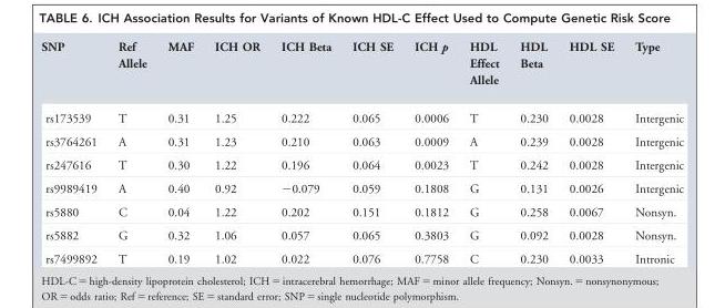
<table><thead><tr><td>SNP</td><td>Ref Allele</td><td>MAF</td><td>ICH OR</td><td>ICH Beta</td><td>ICH SE</td><td>ICH p</td><td>HDL Effect Allele</td><td>HDL Beta</td><td>HDL SE</td><td>Type</td></tr></thead><tbody><tr><td>rs173539</td><td>T</td><td>0.31</td><td>1.25</td><td>0.222</td><td>0.065</td><td>0.0006</td><td>T</td><td>0.230</td><td>0.0028</td><td>Intergenic</td></tr><tr><td>rs3764261</td><td>A</td><td>0.31</td><td>1.23</td><td>0.210</td><td>0.063</td><td>0.0009</td><td>A</td><td>0.239</td><td>0.0028</td><td>Intergenic</td></tr><tr><td>rs247616</td><td>T</td><td>0.30</td><td>1.22</td><td>0.196</td><td>0.064</td><td>0.0023</td><td>T</td><td>0.242</td><td>0.0028</td><td>Intergenic</td></tr><tr><td>rs9989419</td><td>A</td><td>0.40</td><td>0.92</td><td>−0.079</td><td>0.059</td><td>0.1808</td><td>G</td><td>0.131</td><td>0.0026</td><td>Intergenic</td></tr><tr><td>rs5880</td><td>C</td><td>0.04</td><td>1.22</td><td>0.202</td><td>0.151</td><td>0.1812</td><td>G</td><td>0.258</td><td>0.0067</td><td>Nonsyn.</td></tr><tr><td>rs5882</td><td>G</td><td>0.32</td><td>1.06</td><td>0.057</td><td>0.065</td><td>0.3803</td><td>G</td><td>0.092</td><td>0.0028</td><td>Nonsyn.</td></tr><tr><td>rs7499892</td><td>T</td><td>0.19</td><td>1.02</td><td>0.022</td><td>0.076</td><td>0.7758</td><td>C</td><td>0.230</td><td>0.0033</td><td>Intronic</td></tr></tbody></table>